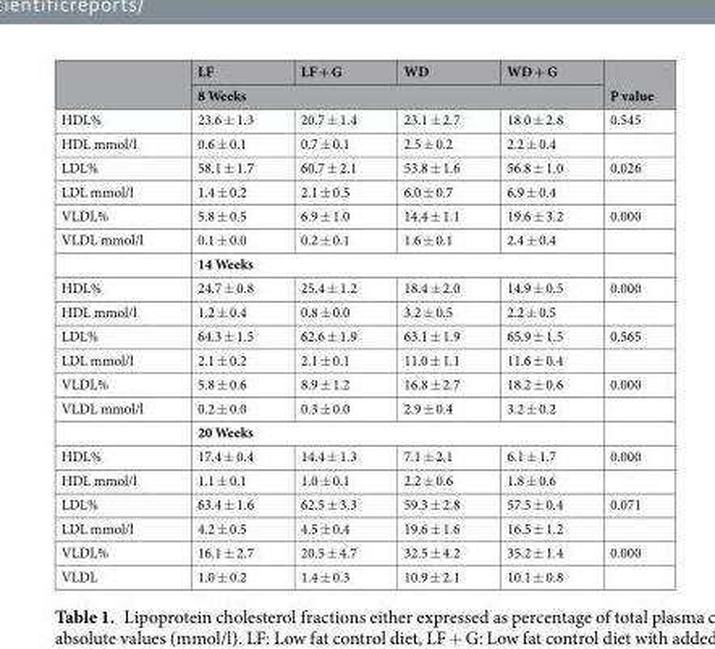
<table><thead><tr><td rowspan="2"></td><td>LF</td><td>LF + G</td><td>WD</td><td>WD + G</td><td rowspan="2">P value</td></tr><tr><td colspan="4">8 Weeks</td></tr></thead><tbody><tr><td>HDL%</td><td>23.6 ± 1.3</td><td>20.7 ± 1.4</td><td>23.1 ± 2.7</td><td>18.0 ± 2.8</td><td>0.545</td></tr><tr><td>HDL mmol/l</td><td>0.6 ± 0.1</td><td>0.7 ± 0.1</td><td>2.5 ± 0.2</td><td>2.2 ± 0.4</td><td></td></tr><tr><td>LDL%</td><td>58.1 ± 1.7</td><td>60.7 ± 2.1</td><td>53.8 ± 1.6</td><td>56.8 ± 1.0</td><td>0.026</td></tr><tr><td>LDL mmol/l</td><td>1.4 ± 0.2</td><td>2.1 ± 0.5</td><td>6.0 ± 0.7</td><td>6.9 ± 0.4</td><td></td></tr><tr><td>VLDL%</td><td>5.8 ± 0.5</td><td>6.9 ± 1.0</td><td>14.4 ± 1.1</td><td>19.6 ± 3.2</td><td>0.000</td></tr><tr><td rowspan="2">VLDL mmol/l</td><td>0.1 ± 0.0</td><td>0.2 ± 0.1</td><td>1.6 ± 0.1</td><td>2.4 ± 0.4</td><td></td></tr><tr><td colspan="4">14 Weeks</td><td></td></tr><tr><td>HDL%</td><td>24.7 ± 0.8</td><td>25.4 ± 1.2</td><td>18.4 ± 2.0</td><td>14.9 ± 0.5</td><td>0.000</td></tr><tr><td>HDL mmol/l</td><td>1.2 ± 0.4</td><td>0.8 ± 0.0</td><td>3.2 ± 0.5</td><td>2.2 ± 0.5</td><td></td></tr><tr><td>LDL%</td><td>64.3 ± 1.5</td><td>62.6 ± 1.9</td><td>63.1 ± 1.9</td><td>65.9 ± 1.5</td><td>0.565</td></tr><tr><td>LDL mmol/l</td><td>2.1 ± 0.2</td><td>2.1 ± 0.1</td><td>11.0 ± 1.1</td><td>11.6 ± 0.4</td><td></td></tr><tr><td>VLDL%</td><td>5.8 ± 0.6</td><td>8.9 ± 1.2</td><td>16.8 ± 2.7</td><td>18.2 ± 0.6</td><td>0.000</td></tr><tr><td rowspan="2">VLDL mmol/l</td><td>0.2 ± 0.0</td><td>0.3 ± 0.0</td><td>2.9 ± 0.4</td><td>3.2 ± 0.2</td><td></td></tr><tr><td colspan="4">20 Weeks</td><td></td></tr><tr><td>HDL%</td><td>17.4 ± 0.4</td><td>14.4 ± 1.3</td><td>7.1 ± 2.1</td><td>6.1 ± 1.7</td><td>0.000</td></tr><tr><td>HDL mmol/l</td><td>1.1 ± 0.1</td><td>1.0 ± 0.1</td><td>2.2 ± 0.6</td><td>1.8 ± 0.6</td><td></td></tr><tr><td>LDL%</td><td>63.4 ± 1.6</td><td>62.5 ± 3.3</td><td>59.3 ± 2.8</td><td>57.5 ± 0.4</td><td>0.071</td></tr><tr><td>LDL mmol/l</td><td>4.2 ± 0.5</td><td>4.5 ± 0.4</td><td>19.6 ± 1.6</td><td>16.5 ± 1.2</td><td></td></tr><tr><td>VLDL%</td><td>16.1 ± 2.7</td><td>20.5 ± 4.7</td><td>32.5 ± 4.2</td><td>35.2 ± 1.4</td><td>0.000</td></tr><tr><td>VLDL</td><td>1.0 ± 0.2</td><td>1.4 ± 0.3</td><td>10.9 ± 2.1</td><td>10.1 ± 0.8</td><td></td></tr></tbody></table>